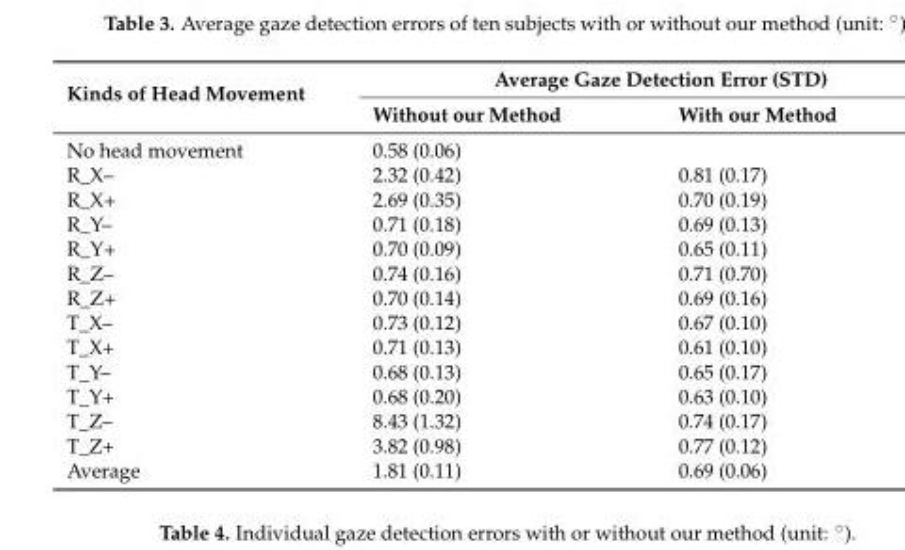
<table><thead><tr><td rowspan="2">Kinds of Head Movement</td><td colspan="2">Average Gaze Detection Error (STD)</td></tr><tr><td>Without our Method</td><td>With our Method</td></tr></thead><tbody><tr><td>No head movement</td><td colspan="2">0.58 (0.06)</td></tr><tr><td>R_X–</td><td>2.32 (0.42)</td><td>0.81 (0.17)</td></tr><tr><td>R_X+</td><td>2.69 (0.35)</td><td>0.70 (0.19)</td></tr><tr><td>R_Y–</td><td>0.71 (0.18)</td><td>0.69 (0.13)</td></tr><tr><td>R_Y+</td><td>0.70 (0.09)</td><td>0.65 (0.11)</td></tr><tr><td>R_Z–</td><td>0.74 (0.16)</td><td>0.71 (0.70)</td></tr><tr><td>R_Z+</td><td>0.70 (0.14)</td><td>0.69 (0.16)</td></tr><tr><td>T_X–</td><td>0.73 (0.12)</td><td>0.67 (0.10)</td></tr><tr><td>T_X+</td><td>0.71 (0.13)</td><td>0.61 (0.10)</td></tr><tr><td>T_Y–</td><td>0.68 (0.13)</td><td>0.65 (0.17)</td></tr><tr><td>T_Y+</td><td>0.68 (0.20)</td><td>0.63 (0.10)</td></tr><tr><td>T_Z–</td><td>8.43 (1.32)</td><td>0.74 (0.17)</td></tr><tr><td>T_Z+</td><td>3.82 (0.98)</td><td>0.77 (0.12)</td></tr><tr><td>Average</td><td>1.81 (0.11)</td><td>0.69 (0.06)</td></tr></tbody></table>